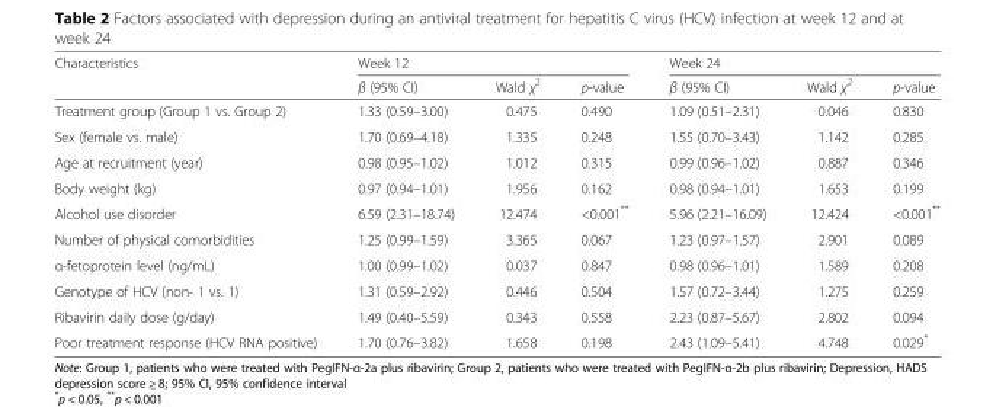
<table><thead><tr><td rowspan="2">Characteristics</td><td colspan="3">Week 12</td><td colspan="3">Week 24</td></tr><tr><td>β (95% CI)</td><td>Wald χ<sup>2</sup></td><td>p-value</td><td>β (95% CI)</td><td>Wald χ<sup>2</sup></td><td>p-value</td></tr></thead><tbody><tr><td>Treatment group (Group 1 vs. Group 2)</td><td>1.33 (0.59–3.00)</td><td>0.475</td><td>0.490</td><td>1.09 (0.51–2.31)</td><td>0.046</td><td>0.830</td></tr><tr><td>Sex (female vs. male)</td><td>1.70 (0.69–4.18)</td><td>1.335</td><td>0.248</td><td>1.55 (0.70–3.43)</td><td>1.142</td><td>0.285</td></tr><tr><td>Age at recruitment (year)</td><td>0.98 (0.95–1.02)</td><td>1.012</td><td>0.315</td><td>0.99 (0.96–1.02)</td><td>0.887</td><td>0.346</td></tr><tr><td>Body weight (kg)</td><td>0.97 (0.94–1.01)</td><td>1.956</td><td>0.162</td><td>0.98 (0.94–1.01)</td><td>1.653</td><td>0.199</td></tr><tr><td>Alcohol use disorder</td><td>6.59 (2.31–18.74)</td><td>12.474</td><td>&lt;0.001**</td><td>5.96 (2.21–16.09)</td><td>12.424</td><td>&lt;0.001**</td></tr><tr><td>Number of physical comorbidities</td><td>1.25 (0.99–1.59)</td><td>3.365</td><td>0.067</td><td>1.23 (0.97–1.57)</td><td>2.901</td><td>0.089</td></tr><tr><td>α-fetoprotein level (ng/mL)</td><td>1.00 (0.99–1.02)</td><td>0.037</td><td>0.847</td><td>0.98 (0.96–1.01)</td><td>1.589</td><td>0.208</td></tr><tr><td>Genotype of HCV (non- 1 vs. 1)</td><td>1.31 (0.59–2.92)</td><td>0.446</td><td>0.504</td><td>1.57 (0.72–3.44)</td><td>1.275</td><td>0.259</td></tr><tr><td>Ribavirin daily dose (g/day)</td><td>1.49 (0.40–5.59)</td><td>0.343</td><td>0.558</td><td>2.23 (0.87–5.67)</td><td>2.802</td><td>0.094</td></tr><tr><td>Poor treatment response (HCV RNA positive)</td><td>1.70 (0.76–3.82)</td><td>1.658</td><td>0.198</td><td>2.43 (1.09–5.41)</td><td>4.748</td><td>0.029*</td></tr></tbody></table>